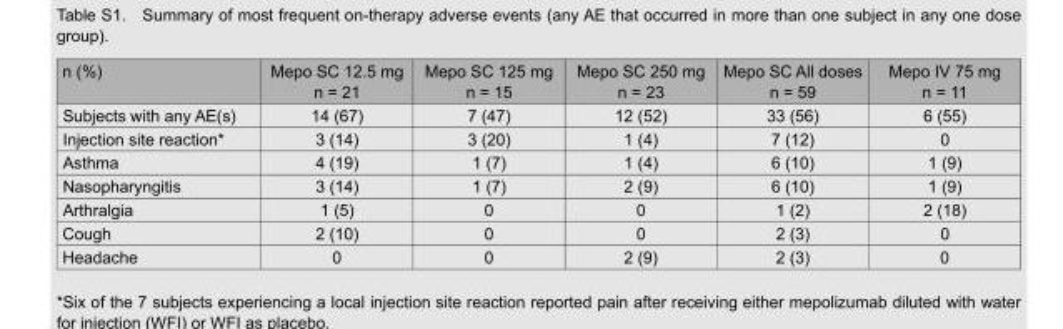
<table><thead><tr><td>n (%)</td><td>Mepo SC 12.5 mg n = 21</td><td>Mepo SC 125 mg n = 15</td><td>Mepo SC 250 mg n = 23</td><td>Mepo SC All doses n = 59</td><td>Mepo IV 75 mg n = 11</td></tr></thead><tbody><tr><td>Subjects with any AE(s)</td><td>14 (67)</td><td>7 (47)</td><td>12 (52)</td><td>33 (56)</td><td>6 (55)</td></tr><tr><td>Injection site reaction*</td><td>3 (14)</td><td>3 (20)</td><td>1 (4)</td><td>7 (12)</td><td>0</td></tr><tr><td>Asthma</td><td>4 (19)</td><td>1 (7)</td><td>1 (4)</td><td>6 (10)</td><td>1 (9)</td></tr><tr><td>Nasopharyngitis</td><td>3 (14)</td><td>1 (7)</td><td>2 (9)</td><td>6 (10)</td><td>1 (9)</td></tr><tr><td>Arthralgia</td><td>1 (5)</td><td>0</td><td>0</td><td>1 (2)</td><td>2 (18)</td></tr><tr><td>Cough</td><td>2 (10)</td><td>0</td><td>0</td><td>2 (3)</td><td>0</td></tr><tr><td>Headache</td><td>0</td><td>0</td><td>2 (9)</td><td>2 (3)</td><td>0</td></tr></tbody></table>